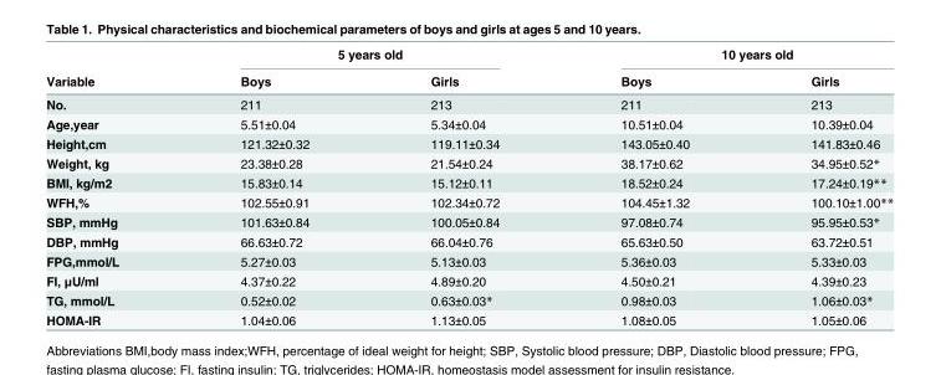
<table><thead><tr><td rowspan="2">Variable</td><td colspan="2">5 years old</td><td colspan="2">10 years old</td></tr><tr><td>Boys</td><td>Girls</td><td>Boys</td><td>Girls</td></tr></thead><tbody><tr><td>No.</td><td>211</td><td>213</td><td>211</td><td>213</td></tr><tr><td>Age,year</td><td>5.51±0.04</td><td>5.34±0.04</td><td>10.51±0.04</td><td>10.39±0.04</td></tr><tr><td>Height,cm</td><td>121.32±0.32</td><td>119.11±0.34</td><td>143.05±0.40</td><td>141.83±0.46</td></tr><tr><td>Weight, kg</td><td>23.38±0.28</td><td>21.54±0.24</td><td>38.17±0.62</td><td>34.95±0.52*</td></tr><tr><td>BMI, kg/m2</td><td>15.83±0.14</td><td>15.12±0.11</td><td>18.52±0.24</td><td>17.24±0.19**</td></tr><tr><td>WFH,%</td><td>102.55±0.91</td><td>102.34±0.72</td><td>104.45±1.32</td><td>100.10±1.00**</td></tr><tr><td>SBP, mmHg</td><td>101.63±0.84</td><td>100.05±0.84</td><td>97.08±0.74</td><td>95.95±0.53*</td></tr><tr><td>DBP, mmHg</td><td>66.63±0.72</td><td>66.04±0.76</td><td>65.63±0.50</td><td>63.72±0.51</td></tr><tr><td>FPG,mmol/L</td><td>5.27±0.03</td><td>5.13±0.03</td><td>5.36±0.03</td><td>5.33±0.03</td></tr><tr><td>FI, μU/ml</td><td>4.37±0.22</td><td>4.89±0.20</td><td>4.50±0.21</td><td>4.39±0.23</td></tr><tr><td>TG, mmol/L</td><td>0.52±0.02</td><td>0.63±0.03*</td><td>0.98±0.03</td><td>1.06±0.03*</td></tr><tr><td>HOMA-IR</td><td>1.04±0.06</td><td>1.13±0.05</td><td>1.08±0.05</td><td>1.05±0.06</td></tr></tbody></table>